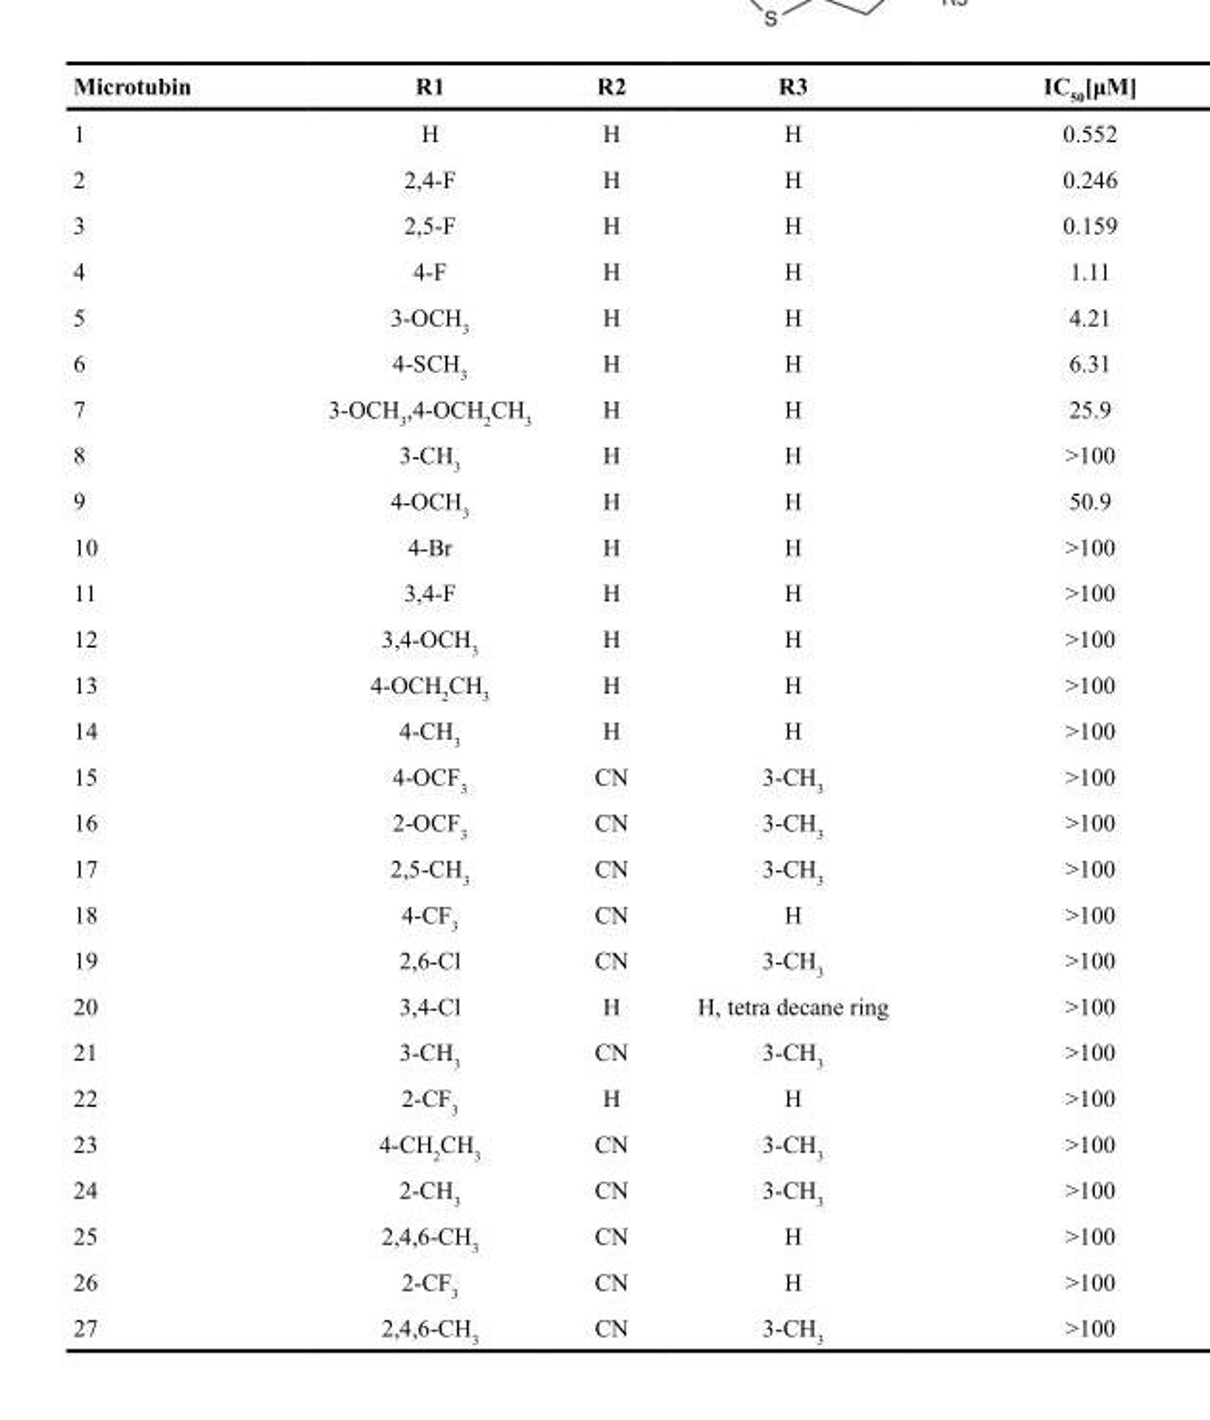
<table><thead><tr><td>Microtubin</td><td>R1</td><td>R2</td><td>R3</td><td>IC<sub>50</sub>[μM]</td></tr></thead><tbody><tr><td>1</td><td>H</td><td>H</td><td>H</td><td>0.552</td></tr><tr><td>2</td><td>2,4-F</td><td>H</td><td>H</td><td>0.246</td></tr><tr><td>3</td><td>2,5-F</td><td>H</td><td>H</td><td>0.159</td></tr><tr><td>4</td><td>4-F</td><td>H</td><td>H</td><td>1.11</td></tr><tr><td>5</td><td>3-OCH<sub>3</sub></td><td>H</td><td>H</td><td>4.21</td></tr><tr><td>6</td><td>4-SCH<sub>3</sub></td><td>H</td><td>H</td><td>6.31</td></tr><tr><td>7</td><td>3-OCH<sub>3</sub>,4-OCH<sub>2</sub>CH<sub>3</sub></td><td>H</td><td>H</td><td>25.9</td></tr><tr><td>8</td><td>3-CH<sub>3</sub></td><td>H</td><td>H</td><td>&gt;100</td></tr><tr><td>9</td><td>4-OCH<sub>3</sub></td><td>H</td><td>H</td><td>50.9</td></tr><tr><td>10</td><td>4-Br</td><td>H</td><td>H</td><td>&gt;100</td></tr><tr><td>11</td><td>3,4-F</td><td>H</td><td>H</td><td>&gt;100</td></tr><tr><td>12</td><td>3,4-OCH<sub>3</sub></td><td>H</td><td>H</td><td>&gt;100</td></tr><tr><td>13</td><td>4-OCH<sub>2</sub>CH<sub>3</sub></td><td>H</td><td>H</td><td>&gt;100</td></tr><tr><td>14</td><td>4-CH<sub>3</sub></td><td>H</td><td>H</td><td>&gt;100</td></tr><tr><td>15</td><td>4-OCF<sub>3</sub></td><td>CN</td><td>3-CH<sub>3</sub></td><td>&gt;100</td></tr><tr><td>16</td><td>2-OCF<sub>3</sub></td><td>CN</td><td>3-CH<sub>3</sub></td><td>&gt;100</td></tr><tr><td>17</td><td>2,5-CH<sub>3</sub></td><td>CN</td><td>3-CH<sub>3</sub></td><td>&gt;100</td></tr><tr><td>18</td><td>4-CF<sub>3</sub></td><td>CN</td><td>H</td><td>&gt;100</td></tr><tr><td>19</td><td>2,6-Cl</td><td>CN</td><td>3-CH<sub>3</sub></td><td>&gt;100</td></tr><tr><td>20</td><td>3,4-Cl</td><td>H</td><td>H, tetra decane ring</td><td>&gt;100</td></tr><tr><td>21</td><td>3-CH<sub>3</sub></td><td>CN</td><td>3-CH<sub>3</sub></td><td>&gt;100</td></tr><tr><td>22</td><td>2-CF<sub>3</sub></td><td>H</td><td>H</td><td>&gt;100</td></tr><tr><td>23</td><td>4-CH<sub>2</sub>CH<sub>3</sub></td><td>CN</td><td>3-CH<sub>3</sub></td><td>&gt;100</td></tr><tr><td>24</td><td>2-CH<sub>3</sub></td><td>CN</td><td>3-CH<sub>3</sub></td><td>&gt;100</td></tr><tr><td>25</td><td>2,4,6-CH<sub>3</sub></td><td>CN</td><td>H</td><td>&gt;100</td></tr><tr><td>26</td><td>2-CF<sub>3</sub></td><td>CN</td><td>H</td><td>&gt;100</td></tr><tr><td>27</td><td>2,4,6-CH<sub>3</sub></td><td>CN</td><td>3-CH<sub>3</sub></td><td>&gt;100</td></tr></tbody></table>